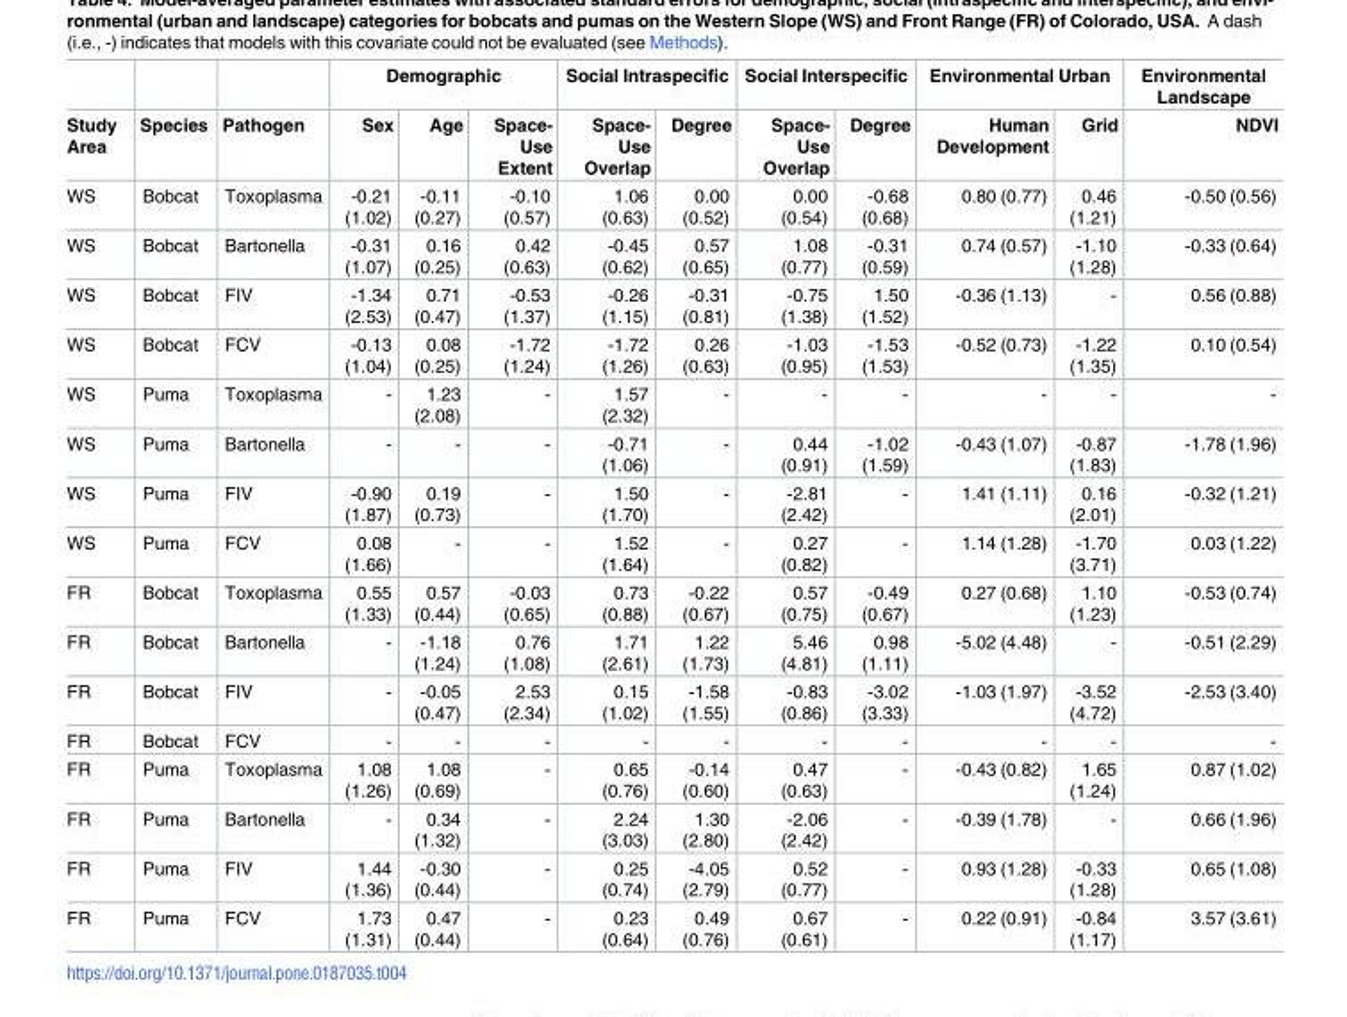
<table><thead><tr><td rowspan="2">Study Area</td><td rowspan="2">Species</td><td rowspan="2">Pathogen</td><td colspan="3">Demographic</td><td colspan="2">Social Intraspecific</td><td colspan="2">Social Interspecific</td><td colspan="2">Environmental Urban</td><td rowspan="2">Environmental Landscape NDVI</td></tr><tr><td>Sex</td><td>Age</td><td>Space- Use Extent</td><td>Space- Use Overlap</td><td>Degree</td><td>Space- Use Overlap</td><td>Degree</td><td>Human Development</td><td>Grid</td></tr></thead><tbody><tr><td>WS</td><td>Bobcat</td><td>Toxoplasma</td><td>-0.21 (1.02)</td><td>-0.11 (0.27)</td><td>-0.10 (0.57)</td><td>1.06 (0.63)</td><td>0.00 (0.52)</td><td>0.00 (0.54)</td><td>-0.68 (0.68)</td><td>0.80 (0.77)</td><td>0.46 (1.21)</td><td>-0.50 (0.56)</td></tr><tr><td>WS</td><td>Bobcat</td><td>Bartonella</td><td>-0.31 (1.07)</td><td>0.16 (0.25)</td><td>0.42 (0.63)</td><td>-0.45 (0.62)</td><td>0.57 (0.65)</td><td>1.08 (0.77)</td><td>-0.31 (0.59)</td><td>0.74 (0.57)</td><td>-1.10 (1.28)</td><td>-0.33 (0.64)</td></tr><tr><td>WS</td><td>Bobcat</td><td>FIV</td><td>-1.34 (2.53)</td><td>0.71 (0.47)</td><td>-0.53 (1.37)</td><td>-0.26 (1.15)</td><td>-0.31 (0.81)</td><td>-0.75 (1.38)</td><td>1.50 (1.52)</td><td>-0.36 (1.13)</td><td>-</td><td>0.56 (0.88)</td></tr><tr><td>WS</td><td>Bobcat</td><td>FCV</td><td>-0.13 (1.04)</td><td>0.08 (0.25)</td><td>-1.72 (1.24)</td><td>-1.72 (1.26)</td><td>0.26 (0.63)</td><td>-1.03 (0.95)</td><td>-1.53 (1.53)</td><td>-0.52 (0.73)</td><td>-1.22 (1.35)</td><td>0.10 (0.54)</td></tr><tr><td>WS</td><td>Puma</td><td>Toxoplasma</td><td>-</td><td>1.23 (2.08)</td><td>-</td><td>1.57 (2.32)</td><td>-</td><td>-</td><td>-</td><td>-</td><td>-</td><td>-</td></tr><tr><td>WS</td><td>Puma</td><td>Bartonella</td><td>-</td><td>-</td><td>-</td><td>-0.71 (1.06)</td><td>-</td><td>0.44 (0.91)</td><td>-1.02 (1.59)</td><td>-0.43 (1.07)</td><td>-0.87 (1.83)</td><td>-1.78 (1.96)</td></tr><tr><td>WS</td><td>Puma</td><td>FIV</td><td>-0.90 (1.87)</td><td>0.19 (0.73)</td><td>-</td><td>1.50 (1.70)</td><td>-</td><td>-2.81 (2.42)</td><td>-</td><td>1.41 (1.11)</td><td>0.16 (2.01)</td><td>-0.32 (1.21)</td></tr><tr><td>WS</td><td>Puma</td><td>FCV</td><td>0.08 (1.66)</td><td>-</td><td>-</td><td>1.52 (1.64)</td><td>-</td><td>0.27 (0.82)</td><td>-</td><td>1.14 (1.28)</td><td>-1.70 (3.71)</td><td>0.03 (1.22)</td></tr><tr><td>FR</td><td>Bobcat</td><td>Toxoplasma</td><td>0.55 (1.33)</td><td>0.57 (0.44)</td><td>-0.03 (0.65)</td><td>0.73 (0.88)</td><td>-0.22 (0.67)</td><td>0.57 (0.75)</td><td>-0.49 (0.67)</td><td>0.27 (0.68)</td><td>1.10 (1.23)</td><td>-0.53 (0.74)</td></tr><tr><td>FR</td><td>Bobcat</td><td>Bartonella</td><td>-</td><td>-1.18 (1.24)</td><td>0.76 (1.08)</td><td>1.71 (2.61)</td><td>1.22 (1.73)</td><td>5.46 (4.81)</td><td>0.98 (1.11)</td><td>-5.02 (4.48)</td><td>-</td><td>-0.51 (2.29)</td></tr><tr><td>FR</td><td>Bobcat</td><td>FIV</td><td>-</td><td>-0.05 (0.47)</td><td>2.53 (2.34)</td><td>0.15 (1.02)</td><td>-1.58 (1.55)</td><td>-0.83 (0.86)</td><td>-3.02 (3.33)</td><td>-1.03 (1.97)</td><td>-3.52 (4.72)</td><td>-2.53 (3.40)</td></tr><tr><td>FR</td><td>Bobcat</td><td>FCV</td><td>-</td><td>-</td><td>-</td><td>-</td><td>-</td><td>-</td><td>-</td><td>-</td><td>-</td><td>-</td></tr><tr><td>FR</td><td>Puma</td><td>Toxoplasma</td><td>1.08 (1.26)</td><td>1.08 (0.69)</td><td>-</td><td>0.65 (0.76)</td><td>-0.14 (0.60)</td><td>0.47 (0.63)</td><td>-</td><td>-0.43 (0.82)</td><td>1.65 (1.24)</td><td>0.87 (1.02)</td></tr><tr><td>FR</td><td>Puma</td><td>Bartonella</td><td>-</td><td>0.34 (1.32)</td><td>-</td><td>2.24 (3.03)</td><td>1.30 (2.80)</td><td>-2.06 (2.42)</td><td>-</td><td>-0.39 (1.78)</td><td>-</td><td>0.66 (1.96)</td></tr><tr><td>FR</td><td>Puma</td><td>FIV</td><td>1.44 (1.36)</td><td>-0.30 (0.44)</td><td>-</td><td>0.25 (0.74)</td><td>-4.05 (2.79)</td><td>0.52 (0.77)</td><td>-</td><td>0.93 (1.28)</td><td>-0.33 (1.28)</td><td>0.65 (1.08)</td></tr><tr><td>FR</td><td>Puma</td><td>FCV</td><td>1.73 (1.31)</td><td>0.47 (0.44)</td><td>-</td><td>0.23 (0.64)</td><td>0.49 (0.76)</td><td>0.67 (0.61)</td><td>-</td><td>0.22 (0.91)</td><td>-0.84 (1.17)</td><td>3.57 (3.61)</td></tr></tbody></table>